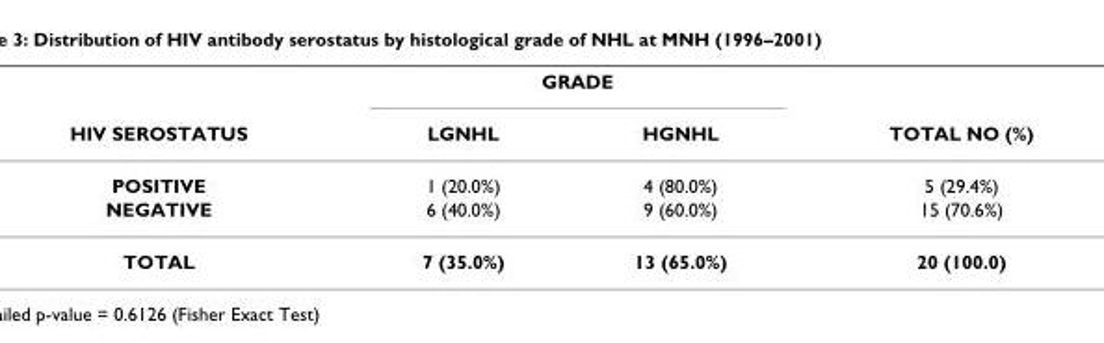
<table><thead><tr><td rowspan="2">HIV SEROSTATUS</td><td colspan="2">GRADE</td><td rowspan="2">TOTAL NO (%)</td></tr><tr><td>LGNHL</td><td>HGNHL</td></tr></thead><tbody><tr><td>POSITIVE</td><td>1 (20.0%)</td><td>4 (80.0%)</td><td>5 (29.4%)</td></tr><tr><td>NEGATIVE</td><td>6 (40.0%)</td><td>9 (60.0%)</td><td>15 (70.6%)</td></tr><tr><td>TOTAL</td><td>7 (35.0%)</td><td>13 (65.0%)</td><td>20 (100.0)</td></tr></tbody></table>